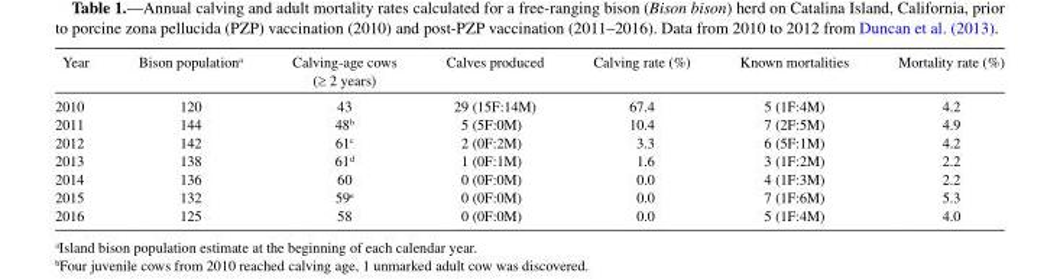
<table><thead><tr><td>Year</td><td>Bison population<sup>a</sup></td><td>Calving-age cows (≥ 2 years)</td><td>Calves produced</td><td>Calving rate (%)</td><td>Known mortalities</td><td>Mortality rate (%)</td></tr></thead><tbody><tr><td>2010</td><td>120</td><td>43</td><td>29 (15F:14M)</td><td>67.4</td><td>5 (1F:4M)</td><td>4.2</td></tr><tr><td>2011</td><td>144</td><td>48<sup>b</sup></td><td>5 (5F:0M)</td><td>10.4</td><td>7 (2F:5M)</td><td>4.9</td></tr><tr><td>2012</td><td>142</td><td>61<sup>c</sup></td><td>2 (0F:2M)</td><td>3.3</td><td>6 (5F:1M)</td><td>4.2</td></tr><tr><td>2013</td><td>138</td><td>61<sup>d</sup></td><td>1 (0F:1M)</td><td>1.6</td><td>3 (1F:2M)</td><td>2.2</td></tr><tr><td>2014</td><td>136</td><td>60</td><td>0 (0F:0M)</td><td>0.0</td><td>4 (1F:3M)</td><td>2.2</td></tr><tr><td>2015</td><td>132</td><td>59<sup>e</sup></td><td>0 (0F:0M)</td><td>0.0</td><td>7 (1F:6M)</td><td>5.3</td></tr><tr><td>2016</td><td>125</td><td>58</td><td>0 (0F:0M)</td><td>0.0</td><td>5 (1F:4M)</td><td>4.0</td></tr></tbody></table>